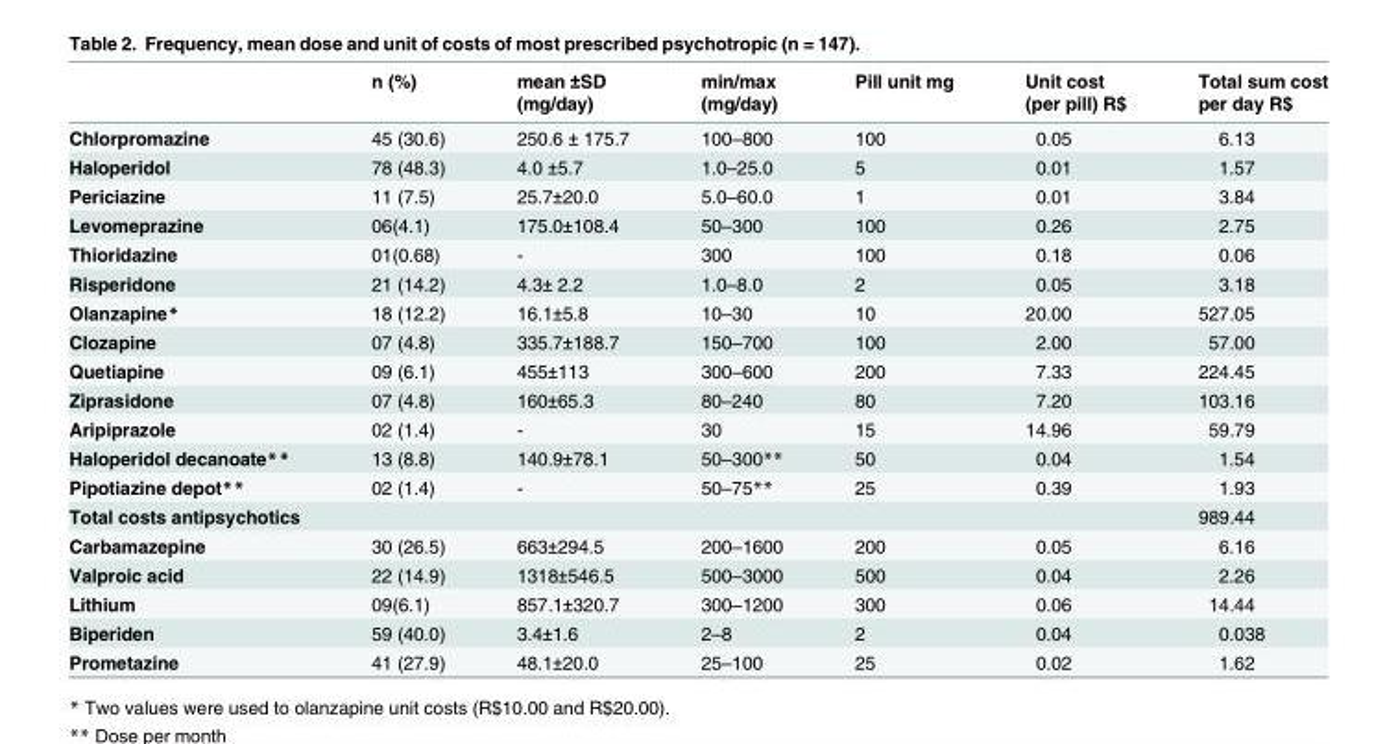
<table><thead><tr><td></td><td>n (%)</td><td>mean ±SD (mg/day)</td><td>min/max (mg/day)</td><td>Pill unit mg</td><td>Unit cost (per pill) R$</td><td>Total sum cost per day R$</td></tr></thead><tbody><tr><td>Chlorpromazine</td><td>45 (30.6)</td><td>250.6 ± 175.7</td><td>100–800</td><td>100</td><td>0.05</td><td>6.13</td></tr><tr><td>Haloperidol</td><td>78 (48.3)</td><td>4.0 ±5.7</td><td>1.0–25.0</td><td>5</td><td>0.01</td><td>1.57</td></tr><tr><td>Periciazine</td><td>11 (7.5)</td><td>25.7±20.0</td><td>5.0–60.0</td><td>1</td><td>0.01</td><td>3.84</td></tr><tr><td>Levomeprazine</td><td>06(4.1)</td><td>175.0±108.4</td><td>50–300</td><td>100</td><td>0.26</td><td>2.75</td></tr><tr><td>Thioridazine</td><td>01(0.68)</td><td>-</td><td>300</td><td>100</td><td>0.18</td><td>0.06</td></tr><tr><td>Risperidone</td><td>21 (14.2)</td><td>4.3± 2.2</td><td>1.0–8.0</td><td>2</td><td>0.05</td><td>3.18</td></tr><tr><td>Olanzapine*</td><td>18 (12.2)</td><td>16.1±5.8</td><td>10–30</td><td>10</td><td>20.00</td><td>527.05</td></tr><tr><td>Clozapine</td><td>07 (4.8)</td><td>335.7±188.7</td><td>150–700</td><td>100</td><td>2.00</td><td>57.00</td></tr><tr><td>Quetiapine</td><td>09 (6.1)</td><td>455±113</td><td>300–600</td><td>200</td><td>7.33</td><td>224.45</td></tr><tr><td>Ziprasidone</td><td>07 (4.8)</td><td>160±65.3</td><td>80–240</td><td>80</td><td>7.20</td><td>103.16</td></tr><tr><td>Aripiprazole</td><td>02 (1.4)</td><td>-</td><td>30</td><td>15</td><td>14.96</td><td>59.79</td></tr><tr><td>Haloperidol decanoate**</td><td>13 (8.8)</td><td>140.9±78.1</td><td>50–300**</td><td>50</td><td>0.04</td><td>1.54</td></tr><tr><td>Pipotiazine depot**</td><td>02 (1.4)</td><td>-</td><td>50–75**</td><td>25</td><td>0.39</td><td>1.93</td></tr><tr><td>Total costs antipsychotics</td><td></td><td></td><td></td><td></td><td></td><td>989.44</td></tr><tr><td>Carbamazepine</td><td>30 (26.5)</td><td>663±294.5</td><td>200–1600</td><td>200</td><td>0.05</td><td>6.16</td></tr><tr><td>Valproic acid</td><td>22 (14.9)</td><td>1318±546.5</td><td>500–3000</td><td>500</td><td>0.04</td><td>2.26</td></tr><tr><td>Lithium</td><td>09(6.1)</td><td>857.1±320.7</td><td>300–1200</td><td>300</td><td>0.06</td><td>14.44</td></tr><tr><td>Biperiden</td><td>59 (40.0)</td><td>3.4±1.6</td><td>2–8</td><td>2</td><td>0.04</td><td>0.038</td></tr><tr><td>Prometazine</td><td>41 (27.9)</td><td>48.1±20.0</td><td>25–100</td><td>25</td><td>0.02</td><td>1.62</td></tr></tbody></table>